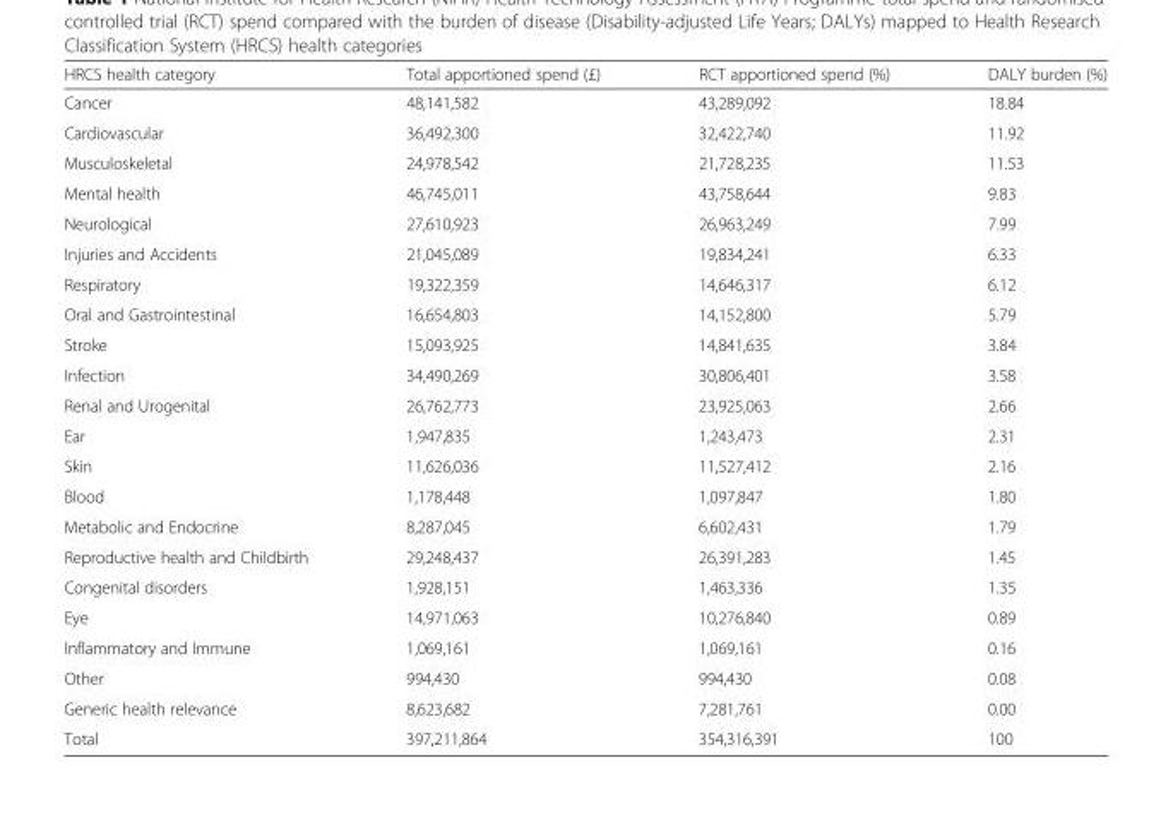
<table><thead><tr><td>HRCS health category</td><td>Total apportioned spend (£)</td><td>RCT apportioned spend (%)</td><td>DALY burden (%)</td></tr></thead><tbody><tr><td>Cancer</td><td>48,141,582</td><td>43,289,092</td><td>18.84</td></tr><tr><td>Cardiovascular</td><td>36,492,300</td><td>32,422,740</td><td>11.92</td></tr><tr><td>Musculoskeletal</td><td>24,978,542</td><td>21,728,235</td><td>11.53</td></tr><tr><td>Mental health</td><td>46,745,011</td><td>43,758,644</td><td>9.83</td></tr><tr><td>Neurological</td><td>27,610,923</td><td>26,963,249</td><td>7.99</td></tr><tr><td>Injuries and Accidents</td><td>21,045,089</td><td>19,834,241</td><td>6.33</td></tr><tr><td>Respiratory</td><td>19,322,359</td><td>14,646,317</td><td>6.12</td></tr><tr><td>Oral and Gastrointestinal</td><td>16,654,803</td><td>14,152,800</td><td>5.79</td></tr><tr><td>Stroke</td><td>15,093,925</td><td>14,841,635</td><td>3.84</td></tr><tr><td>Infection</td><td>34,490,269</td><td>30,806,401</td><td>3.58</td></tr><tr><td>Renal and Urogenital</td><td>26,762,773</td><td>23,925,063</td><td>2.66</td></tr><tr><td>Ear</td><td>1,947,835</td><td>1,243,473</td><td>2.31</td></tr><tr><td>Skin</td><td>11,626,036</td><td>11,527,412</td><td>2.16</td></tr><tr><td>Blood</td><td>1,178,448</td><td>1,097,847</td><td>1.80</td></tr><tr><td>Metabolic and Endocrine</td><td>8,287,045</td><td>6,602,431</td><td>1.79</td></tr><tr><td>Reproductive health and Childbirth</td><td>29,248,437</td><td>26,391,283</td><td>1.45</td></tr><tr><td>Congenital disorders</td><td>1,928,151</td><td>1,463,336</td><td>1.35</td></tr><tr><td>Eye</td><td>14,971,063</td><td>10,276,840</td><td>0.89</td></tr><tr><td>Inflammatory and Immune</td><td>1,069,161</td><td>1,069,161</td><td>0.16</td></tr><tr><td>Other</td><td>994,430</td><td>994,430</td><td>0.08</td></tr><tr><td>Generic health relevance</td><td>8,623,682</td><td>7,281,761</td><td>0.00</td></tr><tr><td>Total</td><td>397,211,864</td><td>354,316,391</td><td>100</td></tr></tbody></table>